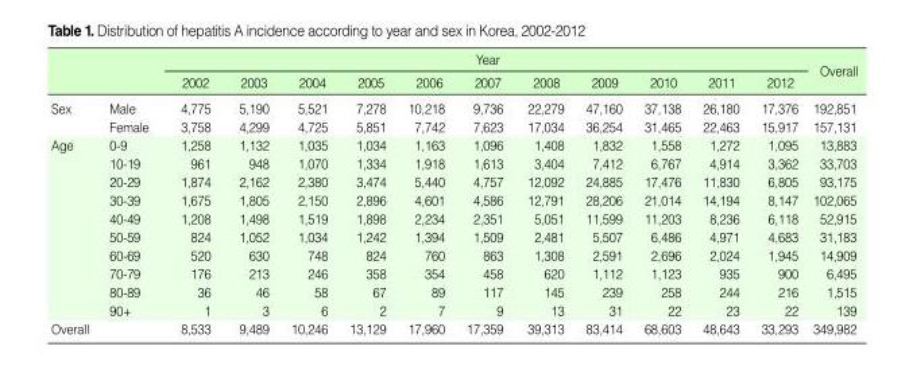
<table><thead><tr><td rowspan="2"></td><td rowspan="2"></td><td colspan="11">Year</td><td rowspan="2">Overall</td></tr><tr><td>2002</td><td>2003</td><td>2004</td><td>2005</td><td>2006</td><td>2007</td><td>2008</td><td>2009</td><td>2010</td><td>2011</td><td>2012</td></tr></thead><tbody><tr><td rowspan="2">Sex</td><td>Male</td><td>4,775</td><td>5,190</td><td>5,521</td><td>7,278</td><td>10,218</td><td>9,736</td><td>22,279</td><td>47,160</td><td>37,138</td><td>26,180</td><td>17,376</td><td>192,851</td></tr><tr><td>Female</td><td>3,758</td><td>4,299</td><td>4,725</td><td>5,851</td><td>7,742</td><td>7,623</td><td>17,034</td><td>36,254</td><td>31,465</td><td>22,463</td><td>15,917</td><td>157,131</td></tr><tr><td rowspan="10">Age</td><td>0-9</td><td>1,258</td><td>1,132</td><td>1,035</td><td>1,034</td><td>1,163</td><td>1,096</td><td>1,408</td><td>1,832</td><td>1,558</td><td>1,272</td><td>1,095</td><td>13,883</td></tr><tr><td>10-19</td><td>961</td><td>948</td><td>1,070</td><td>1,334</td><td>1,918</td><td>1,613</td><td>3,404</td><td>7,412</td><td>6,767</td><td>4,914</td><td>3,362</td><td>33,703</td></tr><tr><td>20-29</td><td>1,874</td><td>2,162</td><td>2,380</td><td>3,474</td><td>5,440</td><td>4,757</td><td>12,092</td><td>24,885</td><td>17,476</td><td>11,830</td><td>6,805</td><td>93,175</td></tr><tr><td>30-39</td><td>1,675</td><td>1,805</td><td>2,150</td><td>2,896</td><td>4,601</td><td>4,586</td><td>12,791</td><td>28,206</td><td>21,014</td><td>14,194</td><td>8,147</td><td>102,065</td></tr><tr><td>40-49</td><td>1,208</td><td>1,498</td><td>1,519</td><td>1,898</td><td>2,234</td><td>2,351</td><td>5,051</td><td>11,599</td><td>11,203</td><td>8,236</td><td>6,118</td><td>52,915</td></tr><tr><td>50-59</td><td>824</td><td>1,052</td><td>1,034</td><td>1,242</td><td>1,394</td><td>1,509</td><td>2,481</td><td>5,507</td><td>6,486</td><td>4,971</td><td>4,683</td><td>31,183</td></tr><tr><td>60-69</td><td>520</td><td>630</td><td>748</td><td>824</td><td>760</td><td>863</td><td>1,308</td><td>2,591</td><td>2,696</td><td>2,024</td><td>1,945</td><td>14,909</td></tr><tr><td>70-79</td><td>176</td><td>213</td><td>246</td><td>358</td><td>354</td><td>458</td><td>620</td><td>1,112</td><td>1,123</td><td>935</td><td>900</td><td>6,495</td></tr><tr><td>80-89</td><td>36</td><td>46</td><td>58</td><td>67</td><td>89</td><td>117</td><td>145</td><td>239</td><td>258</td><td>244</td><td>216</td><td>1,515</td></tr><tr><td>90+</td><td>1</td><td>3</td><td>6</td><td>2</td><td>7</td><td>9</td><td>13</td><td>31</td><td>22</td><td>23</td><td>22</td><td>139</td></tr><tr><td>Overall</td><td></td><td>8,533</td><td>9,489</td><td>10,246</td><td>13,129</td><td>17,960</td><td>17,359</td><td>39,313</td><td>83,414</td><td>68,603</td><td>48,643</td><td>33,293</td><td>349,982</td></tr></tbody></table>